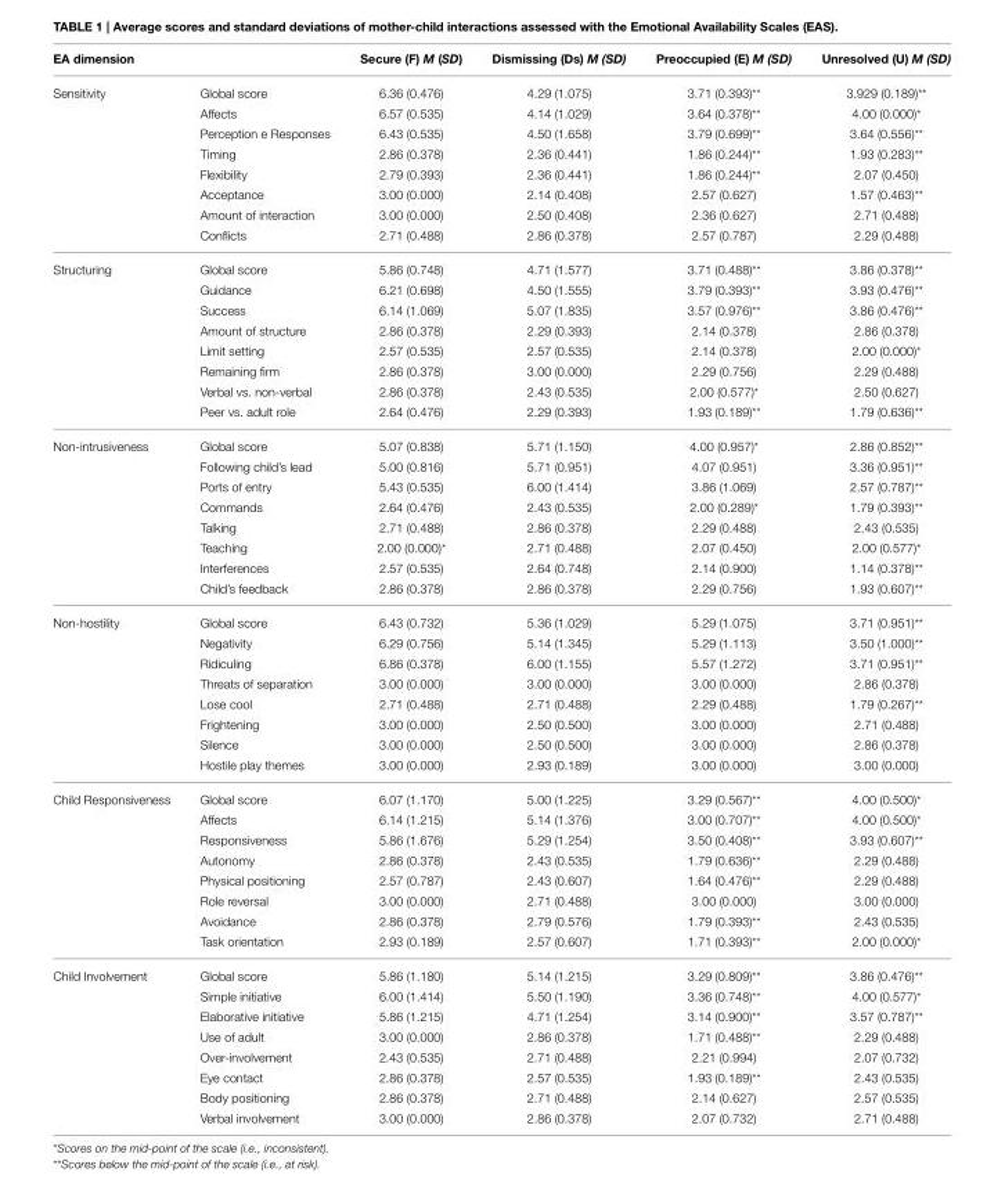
<table><thead><tr><td>EA dimension</td><td></td><td>Secure (F) M (SD)</td><td>Dismissing (Ds) M (SD)</td><td>Preoccupied (E) M (SD)</td><td>Unresolved (U) M (SD)</td></tr></thead><tbody><tr><td rowspan="8">Sensitivity</td><td>Global score</td><td>6.36 (0.476)</td><td>4.29 (1.075)</td><td>3.71 (0.393)**</td><td>3.929 (0.189)**</td></tr><tr><td>Affects</td><td>6.57 (0.535)</td><td>4.14 (1.029)</td><td>3.64 (0.378)**</td><td>4.00 (0.000)*</td></tr><tr><td>Perception e Responses</td><td>6.43 (0.535)</td><td>4.50 (1.658)</td><td>3.79 (0.699)**</td><td>3.64 (0.556)**</td></tr><tr><td>Timing</td><td>2.86 (0.378)</td><td>2.36 (0.441)</td><td>1.86 (0.244)**</td><td>1.93 (0.283)**</td></tr><tr><td>Flexibility</td><td>2.79 (0.393)</td><td>2.36 (0.441)</td><td>1.86 (0.244)**</td><td>2.07 (0.450)</td></tr><tr><td>Acceptance</td><td>3.00 (0.000)</td><td>2.14 (0.408)</td><td>2.57 (0.627)</td><td>1.57 (0.463)**</td></tr><tr><td>Amount of interaction</td><td>3.00 (0.000)</td><td>2.50 (0.408)</td><td>2.36 (0.627)</td><td>2.71 (0.488)</td></tr><tr><td>Conflicts</td><td>2.71 (0.488)</td><td>2.86 (0.378)</td><td>2.57 (0.787)</td><td>2.29 (0.488)</td></tr><tr><td rowspan="8">Structuring</td><td>Global score</td><td>5.86 (0.748)</td><td>4.71 (1.577)</td><td>3.71 (0.488)**</td><td>3.86 (0.378)**</td></tr><tr><td>Guidance</td><td>6.21 (0.698)</td><td>4.50 (1.555)</td><td>3.79 (0.393)**</td><td>3.93 (0.476)**</td></tr><tr><td>Success</td><td>6.14 (1.069)</td><td>5.07 (1.835)</td><td>3.57 (0.976)**</td><td>3.86 (0.476)**</td></tr><tr><td>Amount of structure</td><td>2.86 (0.378)</td><td>2.29 (0.393)</td><td>2.14 (0.378)</td><td>2.86 (0.378)</td></tr><tr><td>Limit setting</td><td>2.57 (0.535)</td><td>2.57 (0.535)</td><td>2.14 (0.378)</td><td>2.00 (0.000)*</td></tr><tr><td>Remaining firm</td><td>2.86 (0.378)</td><td>3.00 (0.000)</td><td>2.29 (0.756)</td><td>2.29 (0.488)</td></tr><tr><td>Verbal vs. non-verbal</td><td>2.86 (0.378)</td><td>2.43 (0.535)</td><td>2.00 (0.577)*</td><td>2.50 (0.627)</td></tr><tr><td>Peer vs. adult role</td><td>2.64 (0.476)</td><td>2.29 (0.393)</td><td>1.93 (0.189)**</td><td>1.79 (0.636)**</td></tr><tr><td rowspan="8">Non-intrusiveness</td><td>Global score</td><td>5.07 (0.838)</td><td>5.71 (1.150)</td><td>4.00 (0.957)*</td><td>2.86 (0.852)**</td></tr><tr><td>Following child’s lead</td><td>5.00 (0.816)</td><td>5.71 (0.951)</td><td>4.07 (0.951)</td><td>3.36 (0.951)**</td></tr><tr><td>Ports of entry</td><td>5.43 (0.535)</td><td>6.00 (1.414)</td><td>3.86 (1.069)</td><td>2.57 (0.787)**</td></tr><tr><td>Commands</td><td>2.64 (0.476)</td><td>2.43 (0.535)</td><td>2.00 (0.289)*</td><td>1.79 (0.393)**</td></tr><tr><td>Talking</td><td>2.71 (0.488)</td><td>2.86 (0.378)</td><td>2.29 (0.488)</td><td>2.43 (0.535)</td></tr><tr><td>Teaching</td><td>2.00 (0.000)*</td><td>2.71 (0.488)</td><td>2.07 (0.450)</td><td>2.00 (0.577)*</td></tr><tr><td>Interferences</td><td>2.57 (0.535)</td><td>2.64 (0.748)</td><td>2.14 (0.900)</td><td>1.14 (0.378)**</td></tr><tr><td>Child’s feedback</td><td>2.86 (0.378)</td><td>2.86 (0.378)</td><td>2.29 (0.756)</td><td>1.93 (0.607)**</td></tr><tr><td rowspan="8">Non-hostility</td><td>Global score</td><td>6.43 (0.732)</td><td>5.36 (1.029)</td><td>5.29 (1.075)</td><td>3.71 (0.951)**</td></tr><tr><td>Negativity</td><td>6.29 (0.756)</td><td>5.14 (1.345)</td><td>5.29 (1.113)</td><td>3.50 (1.000)**</td></tr><tr><td>Ridiculing</td><td>6.86 (0.378)</td><td>6.00 (1.155)</td><td>5.57 (1.272)</td><td>3.71 (0.951)**</td></tr><tr><td>Threats of separation</td><td>3.00 (0.000)</td><td>3.00 (0.000)</td><td>3.00 (0.000)</td><td>2.86 (0.378)</td></tr><tr><td>Lose cool</td><td>2.71 (0.488)</td><td>2.71 (0.488)</td><td>2.29 (0.488)</td><td>1.79 (0.267)**</td></tr><tr><td>Frightening</td><td>3.00 (0.000)</td><td>2.50 (0.500)</td><td>3.00 (0.000)</td><td>2.71 (0.488)</td></tr><tr><td>Silence</td><td>3.00 (0.000)</td><td>2.50 (0.500)</td><td>3.00 (0.000)</td><td>2.86 (0.378)</td></tr><tr><td>Hostile play themes</td><td>3.00 (0.000)</td><td>2.93 (0.189)</td><td>3.00 (0.000)</td><td>3.00 (0.000)</td></tr><tr><td rowspan="8">Child Responsiveness</td><td>Global score</td><td>6.07 (1.170)</td><td>5.00 (1.225)</td><td>3.29 (0.567)**</td><td>4.00 (0.500)*</td></tr><tr><td>Affects</td><td>6.14 (1.215)</td><td>5.14 (1.376)</td><td>3.00 (0.707)**</td><td>4.00 (0.500)*</td></tr><tr><td>Responsiveness</td><td>5.86 (1.676)</td><td>5.29 (1.254)</td><td>3.50 (0.408)**</td><td>3.93 (0.607)**</td></tr><tr><td>Autonomy</td><td>2.86 (0.378)</td><td>2.43 (0.535)</td><td>1.79 (0.636)**</td><td>2.29 (0.488)</td></tr><tr><td>Physical positioning</td><td>2.57 (0.787)</td><td>2.43 (0.607)</td><td>1.64 (0.476)**</td><td>2.29 (0.488)</td></tr><tr><td>Role reversal</td><td>3.00 (0.000)</td><td>2.71 (0.488)</td><td>3.00 (0.000)</td><td>3.00 (0.000)</td></tr><tr><td>Avoidance</td><td>2.86 (0.378)</td><td>2.79 (0.576)</td><td>1.79 (0.393)**</td><td>2.43 (0.535)</td></tr><tr><td>Task orientation</td><td>2.93 (0.189)</td><td>2.57 (0.607)</td><td>1.71 (0.393)**</td><td>2.00 (0.000)*</td></tr><tr><td rowspan="8">Child Involvement</td><td>Global score</td><td>5.86 (1.180)</td><td>5.14 (1.215)</td><td>3.29 (0.809)**</td><td>3.86 (0.476)**</td></tr><tr><td>Simple initiative</td><td>6.00 (1.414)</td><td>5.50 (1.190)</td><td>3.36 (0.748)**</td><td>4.00 (0.577)*</td></tr><tr><td>Elaborative initiative</td><td>5.86 (1.215)</td><td>4.71 (1.254)</td><td>3.14 (0.900)**</td><td>3.57 (0.787)**</td></tr><tr><td>Use of adult</td><td>3.00 (0.000)</td><td>2.86 (0.378)</td><td>1.71 (0.488)**</td><td>2.29 (0.488)</td></tr><tr><td>Over-involvement</td><td>2.43 (0.535)</td><td>2.71 (0.488)</td><td>2.21 (0.994)</td><td>2.07 (0.732)</td></tr><tr><td>Eye contact</td><td>2.86 (0.378)</td><td>2.57 (0.535)</td><td>1.93 (0.189)**</td><td>2.43 (0.535)</td></tr><tr><td>Body positioning</td><td>2.86 (0.378)</td><td>2.71 (0.488)</td><td>2.14 (0.627)</td><td>2.57 (0.535)</td></tr><tr><td>Verbal involvement</td><td>3.00 (0.000)</td><td>2.86 (0.378)</td><td>2.07 (0.732)</td><td>2.71 (0.488)</td></tr></tbody></table>